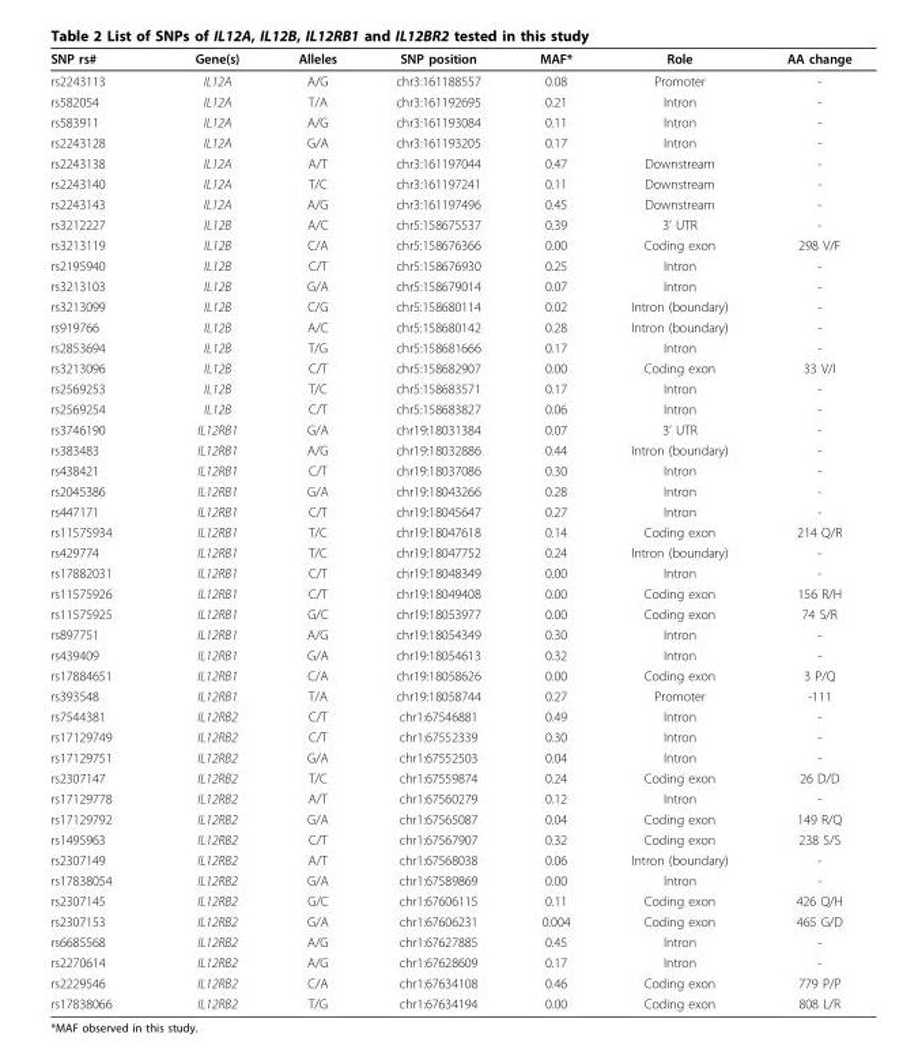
<table><thead><tr><td>SNP rs#</td><td>Gene(s)</td><td>Alleles</td><td>SNP position</td><td>MAF*</td><td>Role</td><td>AA change</td></tr></thead><tbody><tr><td>rs2243113</td><td>IL12A</td><td>A/G</td><td>chr3:161188557</td><td>0.08</td><td>Promoter</td><td>-</td></tr><tr><td>rs582054</td><td>IL12A</td><td>T/A</td><td>chr3:161192695</td><td>0.21</td><td>Intron</td><td>-</td></tr><tr><td>rs583911</td><td>IL12A</td><td>A/G</td><td>chr3:161193084</td><td>0.11</td><td>Intron</td><td>-</td></tr><tr><td>rs2243128</td><td>IL12A</td><td>G/A</td><td>chr3:161193205</td><td>0.17</td><td>Intron</td><td>-</td></tr><tr><td>rs2243138</td><td>IL12A</td><td>A/T</td><td>chr3:161197044</td><td>0.47</td><td>Downstream</td><td>-</td></tr><tr><td>rs2243140</td><td>IL12A</td><td>T/C</td><td>chr3:161197241</td><td>0.11</td><td>Downstream</td><td>-</td></tr><tr><td>rs2243143</td><td>IL12A</td><td>A/G</td><td>chr3:161197496</td><td>0.45</td><td>Downstream</td><td>-</td></tr><tr><td>rs3212227</td><td>IL12B</td><td>A/C</td><td>chr5:158675537</td><td>0.39</td><td>3’ UTR</td><td>-</td></tr><tr><td>rs3213119</td><td>IL12B</td><td>C/A</td><td>chr5:158676366</td><td>0.00</td><td>Coding exon</td><td>298 V/F</td></tr><tr><td>rs2195940</td><td>IL12B</td><td>C/T</td><td>chr5:158676930</td><td>0.25</td><td>Intron</td><td>-</td></tr><tr><td>rs3213103</td><td>IL12B</td><td>G/A</td><td>chr5:158679014</td><td>0.07</td><td>Intron</td><td>-</td></tr><tr><td>rs3213099</td><td>IL12B</td><td>C/G</td><td>chr5:158680114</td><td>0.02</td><td>Intron (boundary)</td><td>-</td></tr><tr><td>rs919766</td><td>IL12B</td><td>A/C</td><td>chr5:158680142</td><td>0.28</td><td>Intron (boundary)</td><td>-</td></tr><tr><td>rs2853694</td><td>IL12B</td><td>T/G</td><td>chr5:158681666</td><td>0.17</td><td>Intron</td><td>-</td></tr><tr><td>rs3213096</td><td>IL12B</td><td>C/T</td><td>chr5:158682907</td><td>0.00</td><td>Coding exon</td><td>33 V/I</td></tr><tr><td>rs2569253</td><td>IL12B</td><td>T/C</td><td>chr5:158683571</td><td>0.17</td><td>Intron</td><td>-</td></tr><tr><td>rs2569254</td><td>IL12B</td><td>C/T</td><td>chr5:158683827</td><td>0.06</td><td>Intron</td><td>-</td></tr><tr><td>rs3746190</td><td>IL12RB1</td><td>G/A</td><td>chr19:18031384</td><td>0.07</td><td>3’ UTR</td><td>-</td></tr><tr><td>rs383483</td><td>IL12RB1</td><td>A/G</td><td>chr19:18032886</td><td>0.44</td><td>Intron (boundary)</td><td>-</td></tr><tr><td>rs438421</td><td>IL12RB1</td><td>C/T</td><td>chr19:18037086</td><td>0.30</td><td>Intron</td><td>-</td></tr><tr><td>rs2045386</td><td>IL12RB1</td><td>G/A</td><td>chr19:18043266</td><td>0.28</td><td>Intron</td><td>-</td></tr><tr><td>rs447171</td><td>IL12RB1</td><td>C/T</td><td>chr19:18045647</td><td>0.27</td><td>Intron</td><td>-</td></tr><tr><td>rs11575934</td><td>IL12RB1</td><td>T/C</td><td>chr19:18047618</td><td>0.14</td><td>Coding exon</td><td>214 Q/R</td></tr><tr><td>rs429774</td><td>IL12RB1</td><td>T/C</td><td>chr19:18047752</td><td>0.24</td><td>Intron (boundary)</td><td>-</td></tr><tr><td>rs17882031</td><td>IL12RB1</td><td>C/T</td><td>chr19:18048349</td><td>0.00</td><td>Intron</td><td>-</td></tr><tr><td>rs11575926</td><td>IL12RB1</td><td>C/T</td><td>chr19:18049408</td><td>0.00</td><td>Coding exon</td><td>156 R/H</td></tr><tr><td>rs11575925</td><td>IL12RB1</td><td>G/C</td><td>chr19:18053977</td><td>0.00</td><td>Coding exon</td><td>74 S/R</td></tr><tr><td>rs897751</td><td>IL12RB1</td><td>A/G</td><td>chr19:18054349</td><td>0.30</td><td>Intron</td><td>-</td></tr><tr><td>rs439409</td><td>IL12RB1</td><td>G/A</td><td>chr19:18054613</td><td>0.32</td><td>Intron</td><td>-</td></tr><tr><td>rs17884651</td><td>IL12RB1</td><td>C/A</td><td>chr19:18058626</td><td>0.00</td><td>Coding exon</td><td>3 P/Q</td></tr><tr><td>rs393548</td><td>IL12RB1</td><td>T/A</td><td>chr19:18058744</td><td>0.27</td><td>Promoter</td><td>-111</td></tr><tr><td>rs7544381</td><td>IL12RB2</td><td>C/T</td><td>chr1:67546881</td><td>0.49</td><td>Intron</td><td>-</td></tr><tr><td>rs17129749</td><td>IL12RB2</td><td>C/T</td><td>chr1:67552339</td><td>0.30</td><td>Intron</td><td>-</td></tr><tr><td>rs17129751</td><td>IL12RB2</td><td>G/A</td><td>chr1:67552503</td><td>0.04</td><td>Intron</td><td>-</td></tr><tr><td>rs2307147</td><td>IL12RB2</td><td>T/C</td><td>chr1:67559874</td><td>0.24</td><td>Coding exon</td><td>26 D/D</td></tr><tr><td>rs17129778</td><td>IL12RB2</td><td>A/T</td><td>chr1:67560279</td><td>0.12</td><td>Intron</td><td>-</td></tr><tr><td>rs17129792</td><td>IL12RB2</td><td>G/A</td><td>chr1:67565087</td><td>0.04</td><td>Coding exon</td><td>149 R/Q</td></tr><tr><td>rs1495963</td><td>IL12RB2</td><td>C/T</td><td>chr1:67567907</td><td>0.32</td><td>Coding exon</td><td>238 S/S</td></tr><tr><td>rs2307149</td><td>IL12RB2</td><td>A/T</td><td>chr1:67568038</td><td>0.06</td><td>Intron (boundary)</td><td>-</td></tr><tr><td>rs17838054</td><td>IL12RB2</td><td>G/A</td><td>chr1:67589869</td><td>0.00</td><td>Intron</td><td>-</td></tr><tr><td>rs2307145</td><td>IL12RB2</td><td>G/C</td><td>chr1:67606115</td><td>0.11</td><td>Coding exon</td><td>426 Q/H</td></tr><tr><td>rs2307153</td><td>IL12RB2</td><td>G/A</td><td>chr1:67606231</td><td>0.004</td><td>Coding exon</td><td>465 G/D</td></tr><tr><td>rs6685568</td><td>IL12RB2</td><td>A/G</td><td>chr1:67627885</td><td>0.45</td><td>Intron</td><td>-</td></tr><tr><td>rs2270614</td><td>IL12RB2</td><td>A/G</td><td>chr1:67628609</td><td>0.17</td><td>Intron</td><td>-</td></tr><tr><td>rs2229546</td><td>IL12RB2</td><td>C/A</td><td>chr1:67634108</td><td>0.46</td><td>Coding exon</td><td>779 P/P</td></tr><tr><td>rs17838066</td><td>IL12RB2</td><td>T/G</td><td>chr1:67634194</td><td>0.00</td><td>Coding exon</td><td>808 L/R</td></tr></tbody></table>